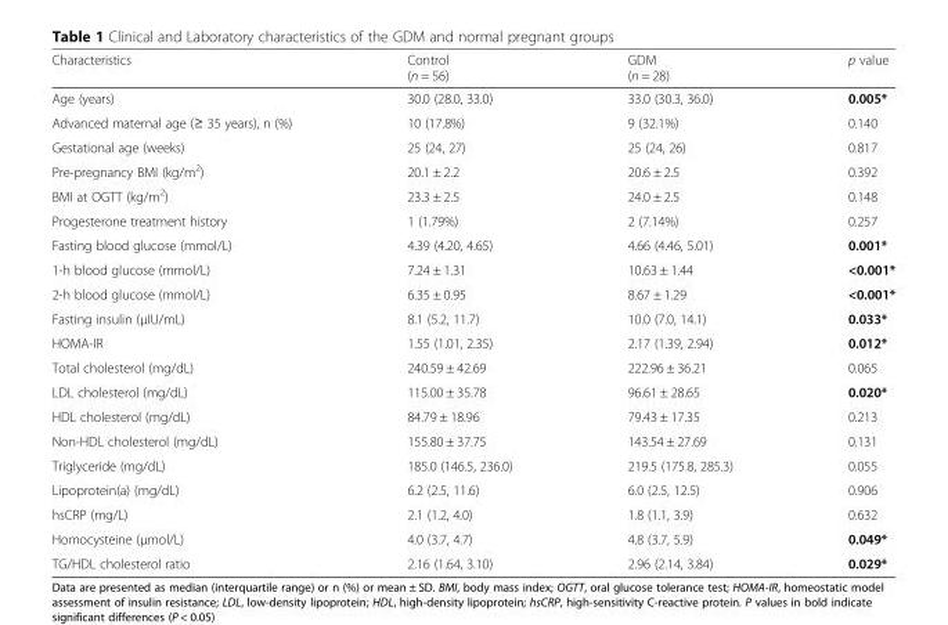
<table><thead><tr><td>Characteristics</td><td>Control (n = 56)</td><td>GDM (n = 28)</td><td>p value</td></tr></thead><tbody><tr><td>Age (years)</td><td>30.0 (28.0, 33.0)</td><td>33.0 (30.3, 36.0)</td><td>0.005*</td></tr><tr><td>Advanced maternal age (≥ 35 years), n (%)</td><td>10 (17.8%)</td><td>9 (32.1%)</td><td>0.140</td></tr><tr><td>Gestational age (weeks)</td><td>25 (24, 27)</td><td>25 (24, 26)</td><td>0.817</td></tr><tr><td>Pre-pregnancy BMI (kg/m<sup>2</sup>)</td><td>20.1 ± 2.2</td><td>20.6 ± 2.5</td><td>0.392</td></tr><tr><td>BMI at OGTT (kg/m<sup>2</sup>)</td><td>23.3 ± 2.5</td><td>24.0 ± 2.5</td><td>0.148</td></tr><tr><td>Progesterone treatment history</td><td>1 (1.79%)</td><td>2 (7.14%)</td><td>0.257</td></tr><tr><td>Fasting blood glucose (mmol/L)</td><td>4.39 (4.20, 4.65)</td><td>4.66 (4.46, 5.01)</td><td>0.001*</td></tr><tr><td>1-h blood glucose (mmol/L)</td><td>7.24 ± 1.31</td><td>10.63 ± 1.44</td><td>&lt;0.001*</td></tr><tr><td>2-h blood glucose (mmol/L)</td><td>6.35 ± 0.95</td><td>8.67 ± 1.29</td><td>&lt;0.001*</td></tr><tr><td>Fasting insulin (μIU/mL)</td><td>8.1 (5.2, 11.7)</td><td>10.0 (7.0, 14.1)</td><td>0.033*</td></tr><tr><td>HOMA-IR</td><td>1.55 (1.01, 2.35)</td><td>2.17 (1.39, 2.94)</td><td>0.012*</td></tr><tr><td>Total cholesterol (mg/dL)</td><td>240.59 ± 42.69</td><td>222.96 ± 36.21</td><td>0.065</td></tr><tr><td>LDL cholesterol (mg/dL)</td><td>115.00 ± 35.78</td><td>96.61 ± 28.65</td><td>0.020*</td></tr><tr><td>HDL cholesterol (mg/dL)</td><td>84.79 ± 18.96</td><td>79.43 ± 17.35</td><td>0.213</td></tr><tr><td>Non-HDL cholesterol (mg/dL)</td><td>155.80 ± 37.75</td><td>143.54 ± 27.69</td><td>0.131</td></tr><tr><td>Triglyceride (mg/dL)</td><td>185.0 (146.5, 236.0)</td><td>219.5 (175.8, 285.3)</td><td>0.055</td></tr><tr><td>Lipoprotein(a) (mg/dL)</td><td>6.2 (2.5, 11.6)</td><td>6.0 (2.5, 12.5)</td><td>0.906</td></tr><tr><td>hsCRP (mg/L)</td><td>2.1 (1.2, 4.0)</td><td>1.8 (1.1, 3.9)</td><td>0.632</td></tr><tr><td>Homocysteine (μmol/L)</td><td>4.0 (3.7, 4.7)</td><td>4.8 (3.7, 5.9)</td><td>0.049*</td></tr><tr><td>TG/HDL cholesterol ratio</td><td>2.16 (1.64, 3.10)</td><td>2.96 (2.14, 3.84)</td><td>0.029*</td></tr></tbody></table>